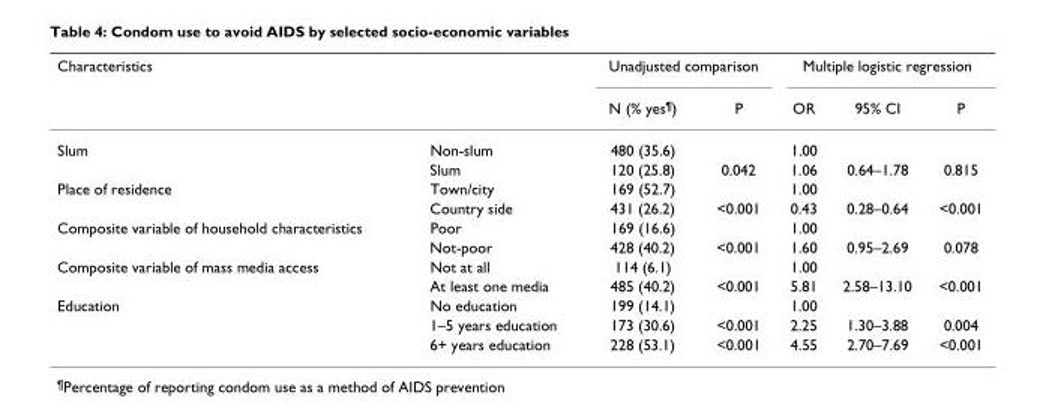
<table><thead><tr><td rowspan="2">Characteristics</td><td rowspan="2"></td><td colspan="2">Unadjusted comparison</td><td colspan="3">Multiple logistic regression</td></tr><tr><td>N (% yes<sup>¶</sup>)</td><td>P</td><td>OR</td><td>95% CI</td><td>P</td></tr></thead><tbody><tr><td rowspan="2">Slum</td><td>Non-slum</td><td>480 (35.6)</td><td></td><td>1.00</td><td></td><td></td></tr><tr><td>Slum</td><td>120 (25.8)</td><td>0.042</td><td>1.06</td><td>0.64–1.78</td><td>0.815</td></tr><tr><td rowspan="2">Place of residence</td><td>Town/city</td><td>169 (52.7)</td><td></td><td>1.00</td><td></td><td></td></tr><tr><td>Country side</td><td>431 (26.2)</td><td>&lt;0.001</td><td>0.43</td><td>0.28–0.64</td><td>&lt;0.001</td></tr><tr><td rowspan="2">Composite variable of household characteristics</td><td>Poor</td><td>169 (16.6)</td><td></td><td>1.00</td><td></td><td></td></tr><tr><td>Not-poor</td><td>428 (40.2)</td><td>&lt;0.001</td><td>1.60</td><td>0.95–2.69</td><td>0.078</td></tr><tr><td rowspan="2">Composite variable of mass media access</td><td>Not at all</td><td>114 (6.1)</td><td></td><td>1.00</td><td></td><td></td></tr><tr><td>At least one media</td><td>485 (40.2)</td><td>&lt;0.001</td><td>5.81</td><td>2.58–13.10</td><td>&lt;0.001</td></tr><tr><td rowspan="3">Education</td><td>No education</td><td>199 (14.1)</td><td></td><td>1.00</td><td></td><td></td></tr><tr><td>1–5 years education</td><td>173 (30.6)</td><td>&lt;0.001</td><td>2.25</td><td>1.30–3.88</td><td>0.004</td></tr><tr><td>6+ years education</td><td>228 (53.1)</td><td>&lt;0.001</td><td>4.55</td><td>2.70–7.69</td><td>&lt;0.001</td></tr></tbody></table>